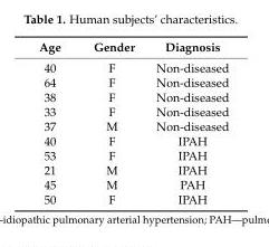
<table><thead><tr><td>Age</td><td>Gender</td><td>Diagnosis</td></tr></thead><tbody><tr><td>40</td><td>F</td><td>Non-diseased</td></tr><tr><td>64</td><td>F</td><td>Non-diseased</td></tr><tr><td>38</td><td>F</td><td>Non-diseased</td></tr><tr><td>33</td><td>F</td><td>Non-diseased</td></tr><tr><td>37</td><td>M</td><td>Non-diseased</td></tr><tr><td>40</td><td>F</td><td>IPAH</td></tr><tr><td>53</td><td>F</td><td>IPAH</td></tr><tr><td>21</td><td>M</td><td>IPAH</td></tr><tr><td>45</td><td>M</td><td>PAH</td></tr><tr><td>50</td><td>F</td><td>IPAH</td></tr></tbody></table>